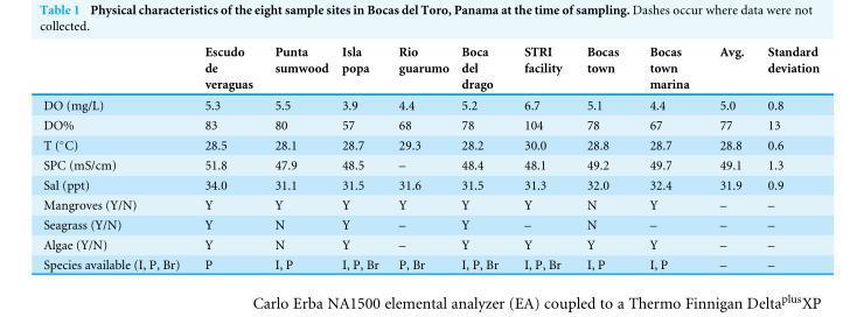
<table><thead><tr><td></td><td>Escudo de veraguas</td><td>Punta sumwood</td><td>Isla popa</td><td>Rio guarumo</td><td>Boca del drago</td><td>STRI facility</td><td>Bocas town</td><td>Bocas town marina</td><td>Avg.</td><td>Standard deviation</td></tr></thead><tbody><tr><td>DO (mg/L)</td><td>5.3</td><td>5.5</td><td>3.9</td><td>4.4</td><td>5.2</td><td>6.7</td><td>5.1</td><td>4.4</td><td>5.0</td><td>0.8</td></tr><tr><td>DO%</td><td>83</td><td>80</td><td>57</td><td>68</td><td>78</td><td>104</td><td>78</td><td>67</td><td>77</td><td>13</td></tr><tr><td>T (◦C)</td><td>28.5</td><td>28.1</td><td>28.7</td><td>29.3</td><td>28.2</td><td>30.0</td><td>28.8</td><td>28.7</td><td>28.8</td><td>0.6</td></tr><tr><td>SPC (mS/cm)</td><td>51.8</td><td>47.9</td><td>48.5</td><td>–</td><td>48.4</td><td>48.1</td><td>49.2</td><td>49.7</td><td>49.1</td><td>1.3</td></tr><tr><td>Sal (ppt)</td><td>34.0</td><td>31.1</td><td>31.5</td><td>31.6</td><td>31.5</td><td>31.3</td><td>32.0</td><td>32.4</td><td>31.9</td><td>0.9</td></tr><tr><td>Mangroves (Y/N)</td><td>Y</td><td>Y</td><td>Y</td><td>Y</td><td>Y</td><td>Y</td><td>N</td><td>Y</td><td>–</td><td>–</td></tr><tr><td>Seagrass (Y/N)</td><td>Y</td><td>N</td><td>Y</td><td>–</td><td>Y</td><td>–</td><td>N</td><td>–</td><td>–</td><td>–</td></tr><tr><td>Algae (Y/N)</td><td>Y</td><td>N</td><td>Y</td><td>–</td><td>Y</td><td>Y</td><td>Y</td><td>Y</td><td>–</td><td>–</td></tr><tr><td>Species available (I, P, Br)</td><td>P</td><td>I, P</td><td>I, P, Br</td><td>P, Br</td><td>I, P, Br</td><td>I, P, Br</td><td>I, P</td><td>I, P</td><td>–</td><td>–</td></tr></tbody></table>